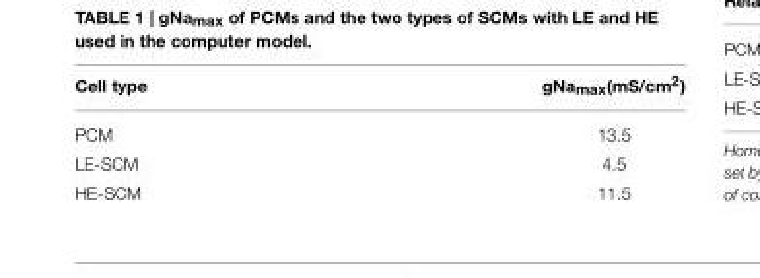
<table><thead><tr><td>Cell type</td><td>gNa<sub>max</sub>(mS/cm<sup>2</sup>)</td></tr></thead><tbody><tr><td>PCM</td><td>13.5</td></tr><tr><td>LE-SCM</td><td>4.5</td></tr><tr><td>HE-SCM</td><td>11.5</td></tr></tbody></table>